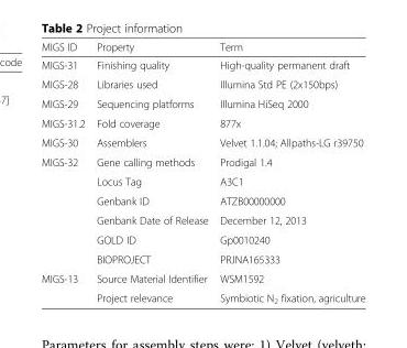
<table><thead><tr><td>MIGS ID</td><td>Property</td><td>Term</td></tr></thead><tbody><tr><td>MIGS-31</td><td>Finishing quality</td><td>High-quality permanent draft</td></tr><tr><td>MIGS-28</td><td>Libraries used</td><td>Illumina Std PE (2x150bps)</td></tr><tr><td>MIGS-29</td><td>Sequencing platforms</td><td>Illumina HiSeq 2000</td></tr><tr><td>MIGS-31.2</td><td>Fold coverage</td><td>877x</td></tr><tr><td>MIGS-30</td><td>Assemblers</td><td>Velvet 1.1.04; Allpaths-LG r39750</td></tr><tr><td rowspan="6">MIGS-32</td><td>Gene calling methods</td><td>Prodigal 1.4</td></tr><tr><td>Locus Tag</td><td>A3C1</td></tr><tr><td>Genbank ID</td><td>ATZB00000000</td></tr><tr><td>Genbank Date of Release</td><td>December 12, 2013</td></tr><tr><td>GOLD ID</td><td>Gp0010240</td></tr><tr><td>BIOPROJECT</td><td>PRJNA165333</td></tr><tr><td rowspan="2">MIGS-13</td><td>Source Material Identifier</td><td>WSM1592</td></tr><tr><td>Project relevance</td><td>Symbiotic N<sub>2</sub> fixation, agriculture</td></tr></tbody></table>